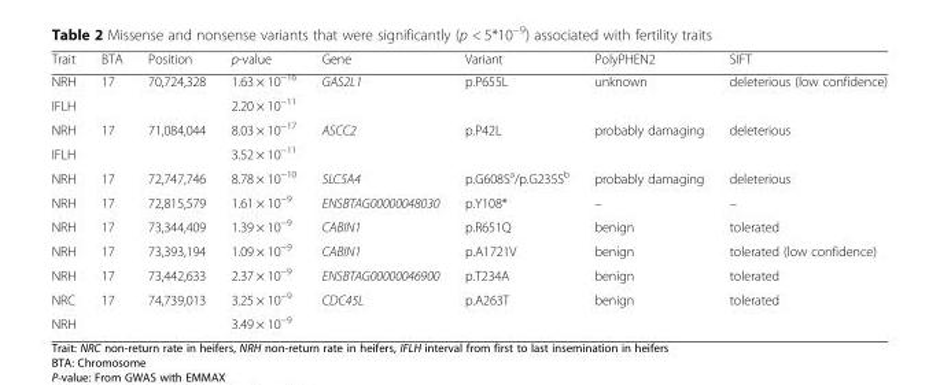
<table><thead><tr><td>Trait</td><td>BTA</td><td>Position</td><td>p-value</td><td>Gene</td><td>Variant</td><td>PolyPHEN2</td><td>SIFT</td></tr></thead><tbody><tr><td>NRH</td><td rowspan="2">17</td><td rowspan="2">70,724,328</td><td>1.63 × 10<sup>−16</sup></td><td rowspan="2">GAS2L1</td><td rowspan="2">p.P655L</td><td rowspan="2">unknown</td><td rowspan="2">deleterious (low confidence)</td></tr><tr><td>IFLH</td><td>2.20 × 10<sup>−11</sup></td></tr><tr><td>NRH</td><td rowspan="2">17</td><td rowspan="2">71,084,044</td><td>8.03 × 10<sup>−17</sup></td><td rowspan="2">ASCC2</td><td rowspan="2">p.P42L</td><td rowspan="2">probably damaging</td><td rowspan="2">deleterious</td></tr><tr><td>IFLH</td><td>3.52 × 10<sup>−11</sup></td></tr><tr><td>NRH</td><td>17</td><td>72,747,746</td><td>8.78 × 10<sup>−10</sup></td><td>SLC5A4</td><td>p.G608S<sup>a</sup>/p.G235S<sup>b</sup></td><td>probably damaging</td><td>deleterious</td></tr><tr><td>NRH</td><td>17</td><td>72,815,579</td><td>1.61 × 10<sup>−9</sup></td><td>ENSBTAG00000048030</td><td>p.Y108*</td><td>–</td><td>–</td></tr><tr><td>NRH</td><td>17</td><td>73,344,409</td><td>1.39 × 10<sup>−9</sup></td><td>CABIN1</td><td>p.R651Q</td><td>benign</td><td>tolerated</td></tr><tr><td>NRH</td><td>17</td><td>73,393,194</td><td>1.09 × 10<sup>−9</sup></td><td>CABIN1</td><td>p.A1721V</td><td>benign</td><td>tolerated (low confidence)</td></tr><tr><td>NRH</td><td>17</td><td>73,442,633</td><td>2.37 × 10<sup>−9</sup></td><td>ENSBTAG00000046900</td><td>p.T234A</td><td>benign</td><td>tolerated</td></tr><tr><td>NRC</td><td rowspan="2">17</td><td rowspan="2">74,739,013</td><td>3.25 × 10<sup>−9</sup></td><td rowspan="2">CDC45L</td><td rowspan="2">p.A263T</td><td rowspan="2">benign</td><td rowspan="2">tolerated</td></tr><tr><td>NRH</td><td>3.49 × 10<sup>−9</sup></td></tr></tbody></table>